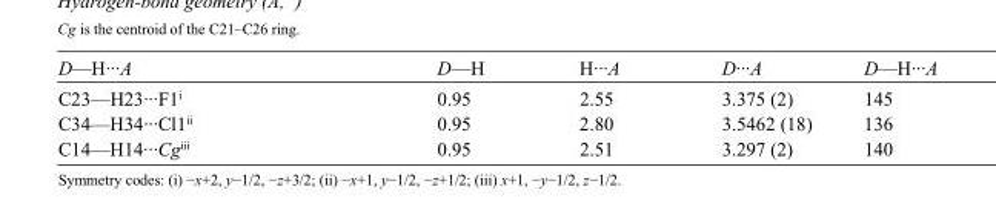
<table><tbody><tr><td>D—H···A</td><td>D—H</td><td>H···A</td><td>D···A</td><td>D—H···A</td></tr><tr><td>C23—H23···F1<sup>i</sup></td><td>0.95</td><td>2.55</td><td>3.375 (2)</td><td>145</td></tr><tr><td>C34—H34···Cl1<sup>ii</sup></td><td>0.95</td><td>2.80</td><td>3.5462 (18)</td><td>136</td></tr><tr><td>C14—H14···Cg<sup>iii</sup></td><td>0.95</td><td>2.51</td><td>3.297 (2)</td><td>140</td></tr></tbody></table>